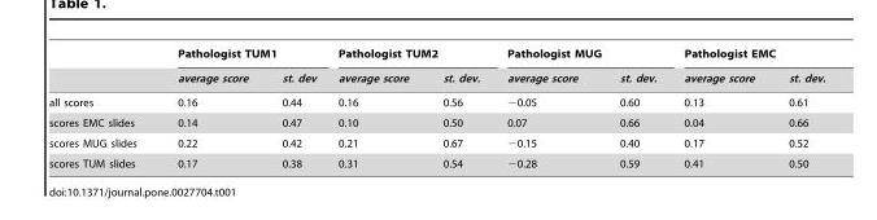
<table><thead><tr><td rowspan="2"></td><td colspan="2">Pathologist TUM1</td><td colspan="2">Pathologist TUM2</td><td colspan="2">Pathologist MUG</td><td colspan="2">Pathologist EMC</td></tr><tr><td>average score</td><td>st. dev</td><td>average score</td><td>st. dev.</td><td>average score</td><td>st. dev.</td><td>average score</td><td>st. dev.</td></tr></thead><tbody><tr><td>all scores</td><td>0.16</td><td>0.44</td><td>0.16</td><td>0.56</td><td>−0.05</td><td>0.60</td><td>0.13</td><td>0.61</td></tr><tr><td>scores EMC slides</td><td>0.14</td><td>0.47</td><td>0.10</td><td>0.50</td><td>0.07</td><td>0.66</td><td>0.04</td><td>0.66</td></tr><tr><td>scores MUG slides</td><td>0.22</td><td>0.42</td><td>0.21</td><td>0.67</td><td>−0.15</td><td>0.40</td><td>0.17</td><td>0.52</td></tr><tr><td>scores TUM slides</td><td>0.17</td><td>0.38</td><td>0.31</td><td>0.54</td><td>−0.28</td><td>0.59</td><td>0.41</td><td>0.50</td></tr></tbody></table>